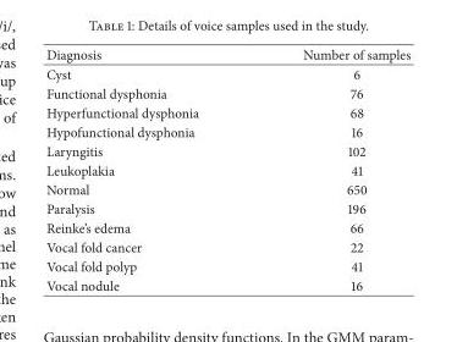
<table><thead><tr><td>Diagnosis</td><td>Number of samples</td></tr></thead><tbody><tr><td>Cyst</td><td>6</td></tr><tr><td>Functional dysphonia</td><td>76</td></tr><tr><td>Hyperfunctional dysphonia</td><td>68</td></tr><tr><td>Hypofunctional dysphonia</td><td>16</td></tr><tr><td>Laryngitis</td><td>102</td></tr><tr><td>Leukoplakia</td><td>41</td></tr><tr><td>Normal</td><td>650</td></tr><tr><td>Paralysis</td><td>196</td></tr><tr><td>Reinke’s edema</td><td>66</td></tr><tr><td>Vocal fold cancer</td><td>22</td></tr><tr><td>Vocal fold polyp</td><td>41</td></tr><tr><td>Vocal nodule</td><td>16</td></tr></tbody></table>